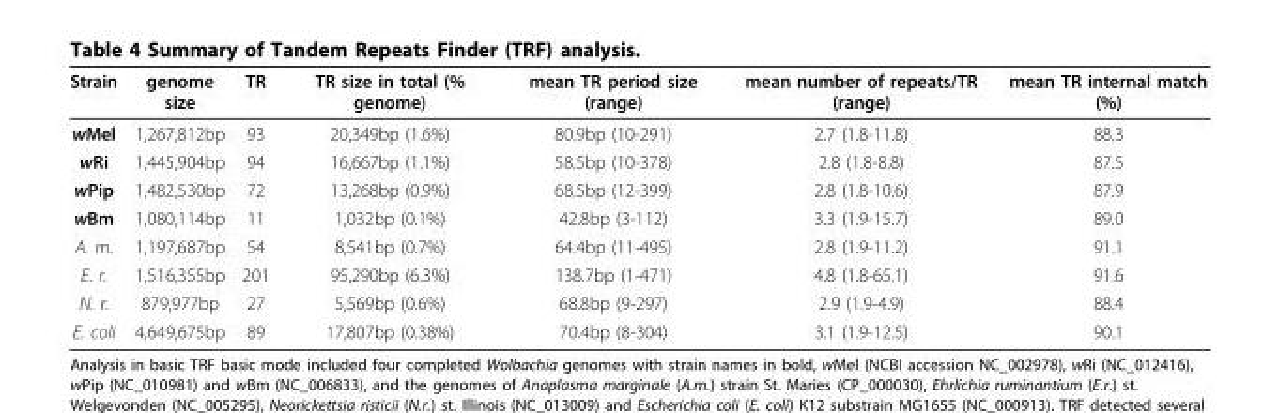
<table><thead><tr><td>Strain</td><td>genome size</td><td>TR</td><td>TR size in total (% genome)</td><td>mean TR period size (range)</td><td>mean number of repeats/TR (range)</td><td>mean TR internal match (%)</td></tr></thead><tbody><tr><td>wMel</td><td>1,267,812bp</td><td>93</td><td>20,349bp (1.6%)</td><td>80.9bp (10-291)</td><td>2.7 (1.8-11.8)</td><td>88.3</td></tr><tr><td>wRi</td><td>1,445,904bp</td><td>94</td><td>16,667bp (1.1%)</td><td>58.5bp (10-378)</td><td>2.8 (1.8-8.8)</td><td>87.5</td></tr><tr><td>wPip</td><td>1,482,530bp</td><td>72</td><td>13,268bp (0.9%)</td><td>68.5bp (12-399)</td><td>2.8 (1.8-10.6)</td><td>87.9</td></tr><tr><td>wBm</td><td>1,080,114bp</td><td>11</td><td>1,032bp (0.1%)</td><td>42.8bp (3-112)</td><td>3.3 (1.9-15.7)</td><td>89.0</td></tr><tr><td>A. m.</td><td>1,197,687bp</td><td>54</td><td>8,541bp (0.7%)</td><td>64.4bp (11-495)</td><td>2.8 (1.9-11.2)</td><td>91.1</td></tr><tr><td>E. r.</td><td>1,516,355bp</td><td>201</td><td>95,290bp (6.3%)</td><td>138.7bp (1-471)</td><td>4.8 (1.8-65.1)</td><td>91.6</td></tr><tr><td>N. r.</td><td>879,977bp</td><td>27</td><td>5,569bp (0.6%)</td><td>68.8bp (9-297)</td><td>2.9 (1.9-4.9)</td><td>88.4</td></tr><tr><td>E. coli</td><td>4,649,675bp</td><td>89</td><td>17,807bp (0.38%)</td><td>70.4bp (8-304)</td><td>3.1 (1.9-12.5)</td><td>90.1</td></tr></tbody></table>